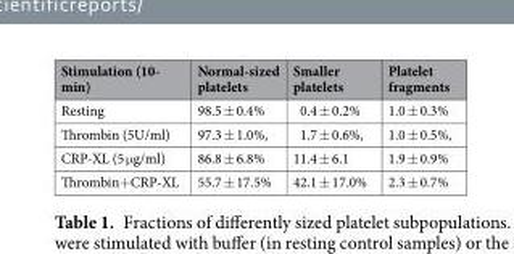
<table><thead><tr><td>Stimulation (10- min)</td><td>Normal-sized platelets</td><td>Smaller platelets</td><td>Platelet fragments</td></tr></thead><tbody><tr><td>Resting</td><td>98.5 ± 0.4%</td><td>0.4 ± 0.2%</td><td>1.0 ± 0.3%</td></tr><tr><td>Thrombin (5U/ml)</td><td>97.3 ± 1.0%,</td><td>1.7 ± 0.6%,</td><td>1.0 ± 0.5%,</td></tr><tr><td>CRP-XL (5 μg/ml)</td><td>86.8 ± 6.8%</td><td>11.4 ± 6.1</td><td>1.9 ± 0.9%</td></tr><tr><td>Thrombin+CRP-XL</td><td>55.7 ± 17.5%</td><td>42.1 ± 17.0%</td><td>2.3 ± 0.7%</td></tr></tbody></table>